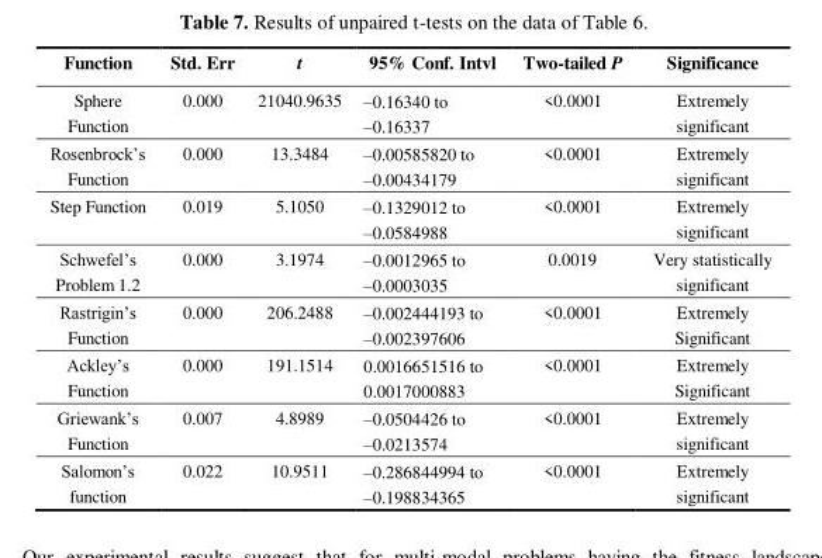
<table><thead><tr><td>Function</td><td>Std. Err</td><td>t</td><td>95% Conf. Intvl</td><td>Two-tailed P</td><td>Significance</td></tr></thead><tbody><tr><td>Sphere Function</td><td>0.000</td><td>21040.9635</td><td>–0.16340 to –0.16337</td><td>&lt;0.0001</td><td>Extremely significant</td></tr><tr><td>Rosenbrock’s Function</td><td>0.000</td><td>13.3484</td><td>–0.00585820 to –0.00434179</td><td>&lt;0.0001</td><td>Extremely significant</td></tr><tr><td>Step Function</td><td>0.019</td><td>5.1050</td><td>–0.1329012 to –0.0584988</td><td>&lt;0.0001</td><td>Extremely significant</td></tr><tr><td>Schwefel’s Problem 1.2</td><td>0.000</td><td>3.1974</td><td>–0.0012965 to –0.0003035</td><td>0.0019</td><td>Very statistically significant</td></tr><tr><td>Rastrigin’s Function</td><td>0.000</td><td>206.2488</td><td>–0.002444193 to –0.002397606</td><td>&lt;0.0001</td><td>Extremely Significant</td></tr><tr><td>Ackley’s Function</td><td>0.000</td><td>191.1514</td><td>0.0016651516 to 0.0017000883</td><td>&lt;0.0001</td><td>Extremely Significant</td></tr><tr><td>Griewank’s Function</td><td>0.007</td><td>4.8989</td><td>–0.0504426 to –0.0213574</td><td>&lt;0.0001</td><td>Extremely significant</td></tr><tr><td>Salomon’s function</td><td>0.022</td><td>10.9511</td><td>–0.286844994 to –0.198834365</td><td>&lt;0.0001</td><td>Extremely significant</td></tr></tbody></table>